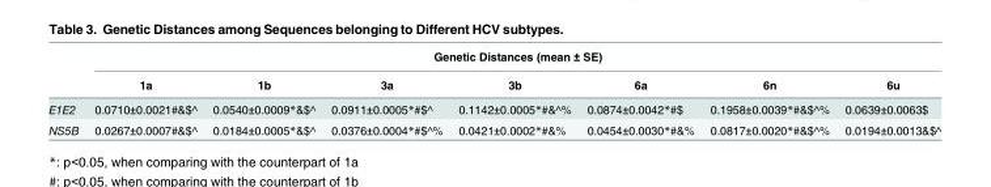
<table><thead><tr><td rowspan="2"></td><td colspan="7">Genetic Distances (mean ± SE)</td></tr><tr><td>1a</td><td>1b</td><td>3a</td><td>3b</td><td>6a</td><td>6n</td><td>6u</td></tr></thead><tbody><tr><td>E1E2</td><td>0.0710±0.0021#&amp;$^</td><td>0.0540±0.0009*&amp;$^</td><td>0.0911±0.0005*#$^</td><td>0.1142±0.0005*#&amp;^%</td><td>0.0874±0.0042*#$</td><td>0.1958±0.0039*#&amp;$^%</td><td>0.0639±0.0063$</td></tr><tr><td>NS5B</td><td>0.0267±0.0007#&amp;$^</td><td>0.0184±0.0005*&amp;$^</td><td>0.0376±0.0004*#$^%</td><td>0.0421±0.0002*#&amp;%</td><td>0.0454±0.0030*#&amp;%</td><td>0.0817±0.0020*#&amp;$^%</td><td>0.0194±0.0013&amp;$^</td></tr></tbody></table>